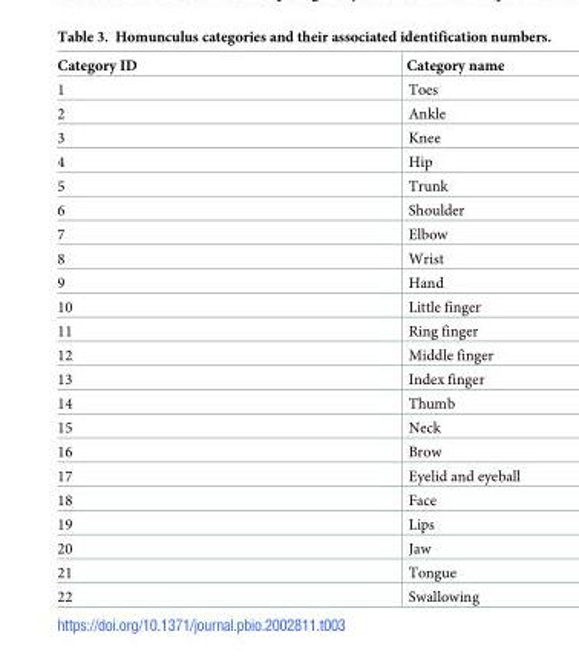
<table><thead><tr><td>Category ID</td><td>Category name</td></tr></thead><tbody><tr><td>1</td><td>Toes</td></tr><tr><td>2</td><td>Ankle</td></tr><tr><td>3</td><td>Knee</td></tr><tr><td>4</td><td>Hip</td></tr><tr><td>5</td><td>Trunk</td></tr><tr><td>6</td><td>Shoulder</td></tr><tr><td>7</td><td>Elbow</td></tr><tr><td>8</td><td>Wrist</td></tr><tr><td>9</td><td>Hand</td></tr><tr><td>10</td><td>Little finger</td></tr><tr><td>11</td><td>Ring finger</td></tr><tr><td>12</td><td>Middle finger</td></tr><tr><td>13</td><td>Index finger</td></tr><tr><td>14</td><td>Thumb</td></tr><tr><td>15</td><td>Neck</td></tr><tr><td>16</td><td>Brow</td></tr><tr><td>17</td><td>Eyelid and eyeball</td></tr><tr><td>18</td><td>Face</td></tr><tr><td>19</td><td>Lips</td></tr><tr><td>20</td><td>Jaw</td></tr><tr><td>21</td><td>Tongue</td></tr><tr><td>22</td><td>Swallowing</td></tr></tbody></table>